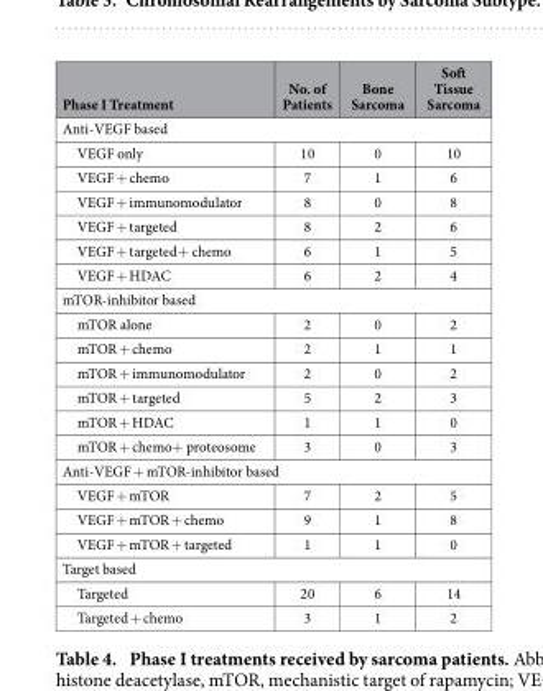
<table><thead><tr><td>Phase I Treatment</td><td>No. of Patients</td><td>Bone Sarcoma</td><td>Soft Tissue Sarcoma</td></tr></thead><tbody><tr><td colspan="4">Anti-VEGF based</td></tr><tr><td>VEGF only</td><td>10</td><td>0</td><td>10</td></tr><tr><td>VEGF + chemo</td><td>7</td><td>1</td><td>6</td></tr><tr><td>VEGF + immunomodulator</td><td>8</td><td>0</td><td>8</td></tr><tr><td>VEGF + targeted</td><td>8</td><td>2</td><td>6</td></tr><tr><td>VEGF + targeted+ chemo</td><td>6</td><td>1</td><td>5</td></tr><tr><td>VEGF + HDAC</td><td>6</td><td>2</td><td>4</td></tr><tr><td colspan="4">mTOR-inhibitor based</td></tr><tr><td>mTOR alone</td><td>2</td><td>0</td><td>2</td></tr><tr><td>mTOR + chemo</td><td>2</td><td>1</td><td>1</td></tr><tr><td>mTOR + immunomodulator</td><td>2</td><td>0</td><td>2</td></tr><tr><td>mTOR + targeted</td><td>5</td><td>2</td><td>3</td></tr><tr><td>mTOR + HDAC</td><td>1</td><td>1</td><td>0</td></tr><tr><td>mTOR + chemo+ proteosome</td><td>3</td><td>0</td><td>3</td></tr><tr><td colspan="4">Anti-VEGF + mTOR-inhibitor based</td></tr><tr><td>VEGF + mTOR</td><td>7</td><td>2</td><td>5</td></tr><tr><td>VEGF + mTOR + chemo</td><td>9</td><td>1</td><td>8</td></tr><tr><td>VEGF + mTOR + targeted</td><td>1</td><td>1</td><td>0</td></tr><tr><td colspan="4">Target based</td></tr><tr><td>Targeted</td><td>20</td><td>6</td><td>14</td></tr><tr><td>Targeted + chemo</td><td>3</td><td>1</td><td>2</td></tr></tbody></table>